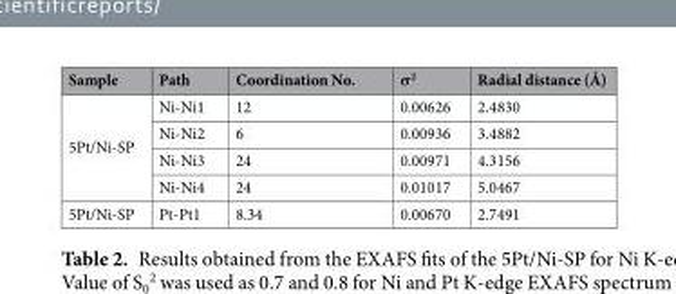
<table><thead><tr><td>Sample</td><td>Path</td><td>Coordination No.</td><td>σ<sup>2</sup></td><td>Radial distance (Å)</td></tr></thead><tbody><tr><td rowspan="4">5Pt/Ni-SP</td><td>Ni-Ni1</td><td>12</td><td>0.00626</td><td>2.4830</td></tr><tr><td>Ni-Ni2</td><td>6</td><td>0.00936</td><td>3.4882</td></tr><tr><td>Ni-Ni3</td><td>24</td><td>0.00971</td><td>4.3156</td></tr><tr><td>Ni-Ni4</td><td>24</td><td>0.01017</td><td>5.0467</td></tr><tr><td>5Pt/Ni-SP</td><td>Pt-Pt1</td><td>8.34</td><td>0.00670</td><td>2.7491</td></tr></tbody></table>